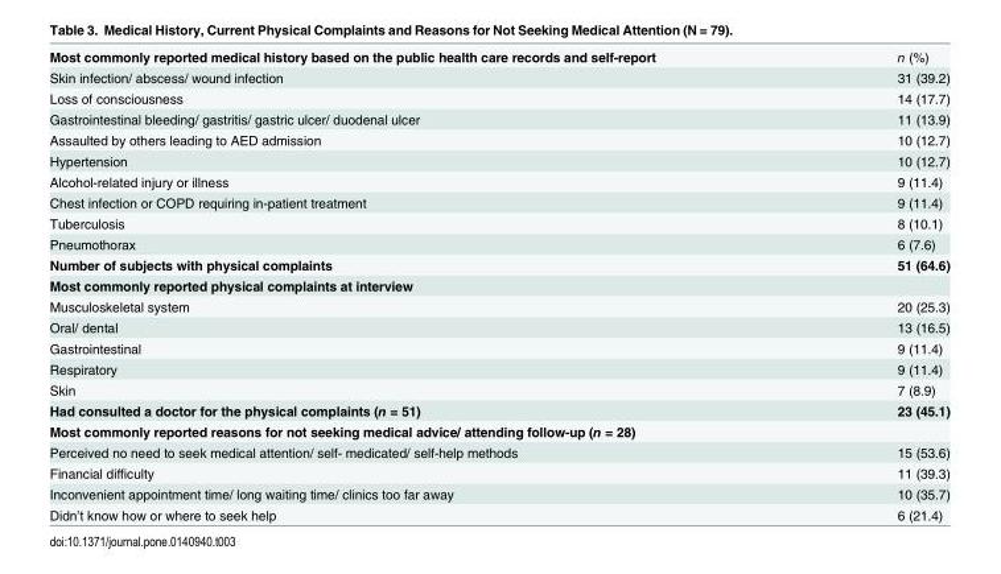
<table><tbody><tr><td>Most commonly reported medical history based on the public health care records and self-report</td><td>n (%)</td></tr><tr><td>Skin infection/ abscess/ wound infection</td><td>31 (39.2)</td></tr><tr><td>Loss of consciousness</td><td>14 (17.7)</td></tr><tr><td>Gastrointestinal bleeding/ gastritis/ gastric ulcer/ duodenal ulcer</td><td>11 (13.9)</td></tr><tr><td>Assaulted by others leading to AED admission</td><td>10 (12.7)</td></tr><tr><td>Hypertension</td><td>10 (12.7)</td></tr><tr><td>Alcohol-related injury or illness</td><td>9 (11.4)</td></tr><tr><td>Chest infection or COPD requiring in-patient treatment</td><td>9 (11.4)</td></tr><tr><td>Tuberculosis</td><td>8 (10.1)</td></tr><tr><td>Pneumothorax</td><td>6 (7.6)</td></tr><tr><td>Number of subjects with physical complaints</td><td>51 (64.6)</td></tr><tr><td colspan="2">Most commonly reported physical complaints at interview</td></tr><tr><td>Musculoskeletal system</td><td>20 (25.3)</td></tr><tr><td>Oral/ dental</td><td>13 (16.5)</td></tr><tr><td>Gastrointestinal</td><td>9 (11.4)</td></tr><tr><td>Respiratory</td><td>9 (11.4)</td></tr><tr><td>Skin</td><td>7 (8.9)</td></tr><tr><td>Had consulted a doctor for the physical complaints (n = 51)</td><td>23 (45.1)</td></tr><tr><td colspan="2">Most commonly reported reasons for not seeking medical advice/ attending follow-up (n = 28)</td></tr><tr><td>Perceived no need to seek medical attention/ self- medicated/ self-help methods</td><td>15 (53.6)</td></tr><tr><td>Financial difficulty</td><td>11 (39.3)</td></tr><tr><td>Inconvenient appointment time/ long waiting time/ clinics too far away</td><td>10 (35.7)</td></tr><tr><td>Didn’t know how or where to seek help</td><td>6 (21.4)</td></tr></tbody></table>